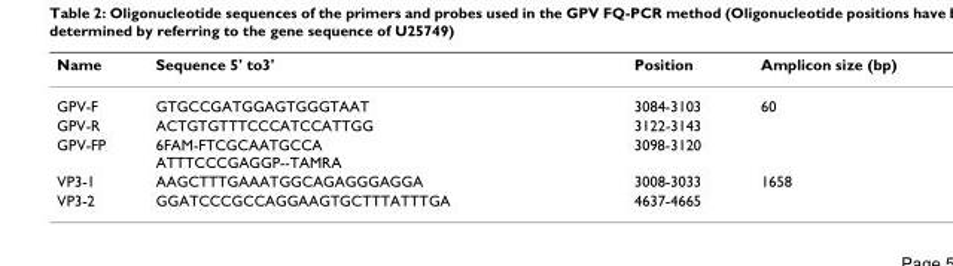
<table><thead><tr><td>Name</td><td>Sequence 5&#x27; to3&#x27;</td><td>Position</td><td>Amplicon size (bp)</td></tr></thead><tbody><tr><td>GPV-F</td><td>GTGCCGATGGAGTGGGTAAT</td><td>3084-3103</td><td>60</td></tr><tr><td>GPV-R</td><td>ACTGTGTTTCCCATCCATTGG</td><td>3122-3143</td><td></td></tr><tr><td>GPV-FP</td><td>6FAM-FTCGCAATGCCA ATTTCCCGAGGP--TAMRA</td><td>3098-3120</td><td></td></tr><tr><td>VP3-1</td><td>AAGCTTTGAAATGGCAGAGGGAGGA</td><td>3008-3033</td><td>1658</td></tr><tr><td>VP3-2</td><td>GGATCCCGCCAGGAAGTGCTTTATTTGA</td><td>4637-4665</td><td></td></tr></tbody></table>